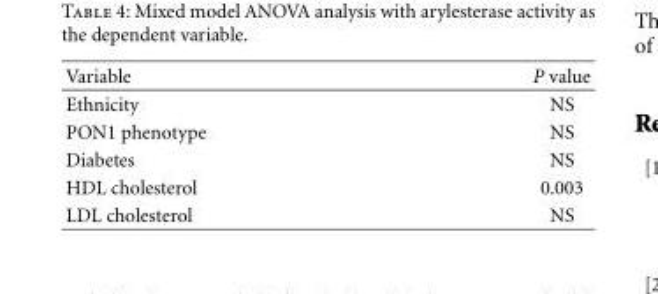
<table><thead><tr><td>Variable</td><td>P value</td></tr></thead><tbody><tr><td>Ethnicity</td><td>NS</td></tr><tr><td>PON1 phenotype</td><td>NS</td></tr><tr><td>Diabetes</td><td>NS</td></tr><tr><td>HDL cholesterol</td><td>0.003</td></tr><tr><td>LDL cholesterol</td><td>NS</td></tr></tbody></table>